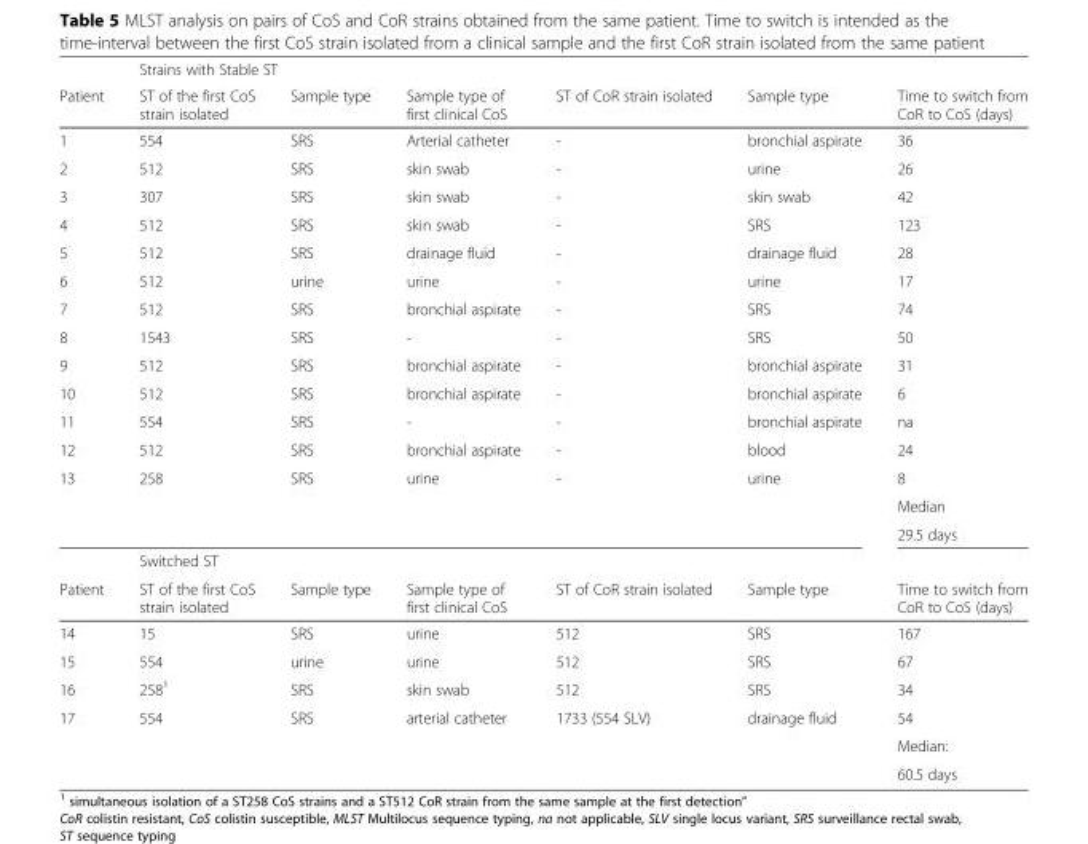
<table><thead><tr><td rowspan="2">Patient</td><td colspan="6">Strains with Stable ST</td></tr><tr><td>ST of the first CoS strain isolated</td><td>Sample type</td><td>Sample type of first clinical CoS</td><td>ST of CoR strain isolated</td><td>Sample type</td><td>Time to switch from CoR to CoS (days)</td></tr></thead><tbody><tr><td>1</td><td>554</td><td>SRS</td><td>Arterial catheter</td><td>-</td><td>bronchial aspirate</td><td>36</td></tr><tr><td>2</td><td>512</td><td>SRS</td><td>skin swab</td><td>-</td><td>urine</td><td>26</td></tr><tr><td>3</td><td>307</td><td>SRS</td><td>skin swab</td><td>-</td><td>skin swab</td><td>42</td></tr><tr><td>4</td><td>512</td><td>SRS</td><td>skin swab</td><td>-</td><td>SRS</td><td>123</td></tr><tr><td>5</td><td>512</td><td>SRS</td><td>drainage fluid</td><td>-</td><td>drainage fluid</td><td>28</td></tr><tr><td>6</td><td>512</td><td>urine</td><td>urine</td><td>-</td><td>urine</td><td>17</td></tr><tr><td>7</td><td>512</td><td>SRS</td><td>bronchial aspirate</td><td>-</td><td>SRS</td><td>74</td></tr><tr><td>8</td><td>1543</td><td>SRS</td><td>-</td><td>-</td><td>SRS</td><td>50</td></tr><tr><td>9</td><td>512</td><td>SRS</td><td>bronchial aspirate</td><td>-</td><td>bronchial aspirate</td><td>31</td></tr><tr><td>10</td><td>512</td><td>SRS</td><td>bronchial aspirate</td><td>-</td><td>bronchial aspirate</td><td>6</td></tr><tr><td>11</td><td>554</td><td>SRS</td><td>-</td><td>-</td><td>bronchial aspirate</td><td>na</td></tr><tr><td>12</td><td>512</td><td>SRS</td><td>bronchial aspirate</td><td>-</td><td>blood</td><td>24</td></tr><tr><td rowspan="4">13</td><td>258</td><td>SRS</td><td>urine</td><td>-</td><td>urine</td><td>8</td></tr><tr><td rowspan="2"></td><td rowspan="2"></td><td rowspan="2"></td><td rowspan="2"></td><td rowspan="2"></td><td>Median</td></tr><tr><td>29.5 days</td></tr><tr><td colspan="6">Switched ST</td></tr><tr><td>Patient</td><td>ST of the first CoS strain isolated</td><td>Sample type</td><td>Sample type of first clinical CoS</td><td>ST of CoR strain isolated</td><td>Sample type</td><td>Time to switch from CoR to CoS (days)</td></tr><tr><td>14</td><td>15</td><td>SRS</td><td>urine</td><td>512</td><td>SRS</td><td>167</td></tr><tr><td>15</td><td>554</td><td>urine</td><td>urine</td><td>512</td><td>SRS</td><td>67</td></tr><tr><td>16</td><td>258<sup>1</sup></td><td>SRS</td><td>skin swab</td><td>512</td><td>SRS</td><td>34</td></tr><tr><td rowspan="3">17</td><td>554</td><td>SRS</td><td>arterial catheter</td><td>1733 (554 SLV)</td><td>drainage fluid</td><td>54</td></tr><tr><td rowspan="2"></td><td rowspan="2"></td><td rowspan="2"></td><td rowspan="2"></td><td rowspan="2"></td><td>Median:</td></tr><tr><td>60.5 days</td></tr></tbody></table>